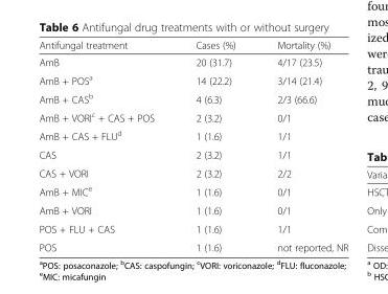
<table><thead><tr><td>Antifungal treatment</td><td>Cases (%)</td><td>Mortality (%)</td></tr></thead><tbody><tr><td>AmB</td><td>20 (31.7)</td><td>4/17 (23.5)</td></tr><tr><td>AmB + POS<sup>a</sup></td><td>14 (22.2)</td><td>3/14 (21.4)</td></tr><tr><td>AmB + CAS<sup>b</sup></td><td>4 (6.3)</td><td>2/3 (66.6)</td></tr><tr><td>AmB + VORI<sup>c</sup> + CAS + POS</td><td>2 (3.2)</td><td>0/1</td></tr><tr><td>AmB + CAS + FLU<sup>d</sup></td><td>1 (1.6)</td><td>1/1</td></tr><tr><td>CAS</td><td>2 (3.2)</td><td>1/1</td></tr><tr><td>CAS + VORI</td><td>2 (3.2)</td><td>2/2</td></tr><tr><td>AmB + MIC<sup>e</sup></td><td>1 (1.6)</td><td>0/1</td></tr><tr><td>AmB + VORI</td><td>1 (1.6)</td><td>0/1</td></tr><tr><td>POS + FLU + CAS</td><td>1 (1.6)</td><td>1/1</td></tr><tr><td>POS</td><td>1 (1.6)</td><td>not reported, NR</td></tr></tbody></table>